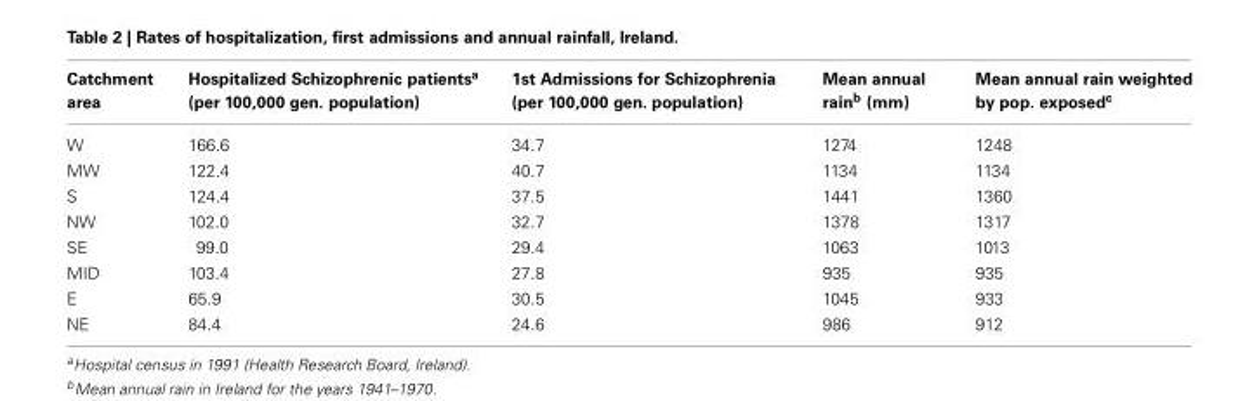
<table><thead><tr><td>Catchment area</td><td>Hospitalized Schizophrenic patients<sup>a</sup> (per 100,000 gen. population)</td><td>1st Admissions for Schizophrenia (per 100,000 gen. population)</td><td>Mean annual rain<sup>b</sup> (mm)</td><td>Mean annual rain weighted by pop. exposed<sup>c</sup></td></tr></thead><tbody><tr><td>W</td><td>166.6</td><td>34.7</td><td>1274</td><td>1248</td></tr><tr><td>MW</td><td>122.4</td><td>40.7</td><td>1134</td><td>1134</td></tr><tr><td>S</td><td>124.4</td><td>37.5</td><td>1441</td><td>1360</td></tr><tr><td>NW</td><td>102.0</td><td>32.7</td><td>1378</td><td>1317</td></tr><tr><td>SE</td><td>99.0</td><td>29.4</td><td>1063</td><td>1013</td></tr><tr><td>MID</td><td>103.4</td><td>27.8</td><td>935</td><td>935</td></tr><tr><td>E</td><td>65.9</td><td>30.5</td><td>1045</td><td>933</td></tr><tr><td>NE</td><td>84.4</td><td>24.6</td><td>986</td><td>912</td></tr></tbody></table>